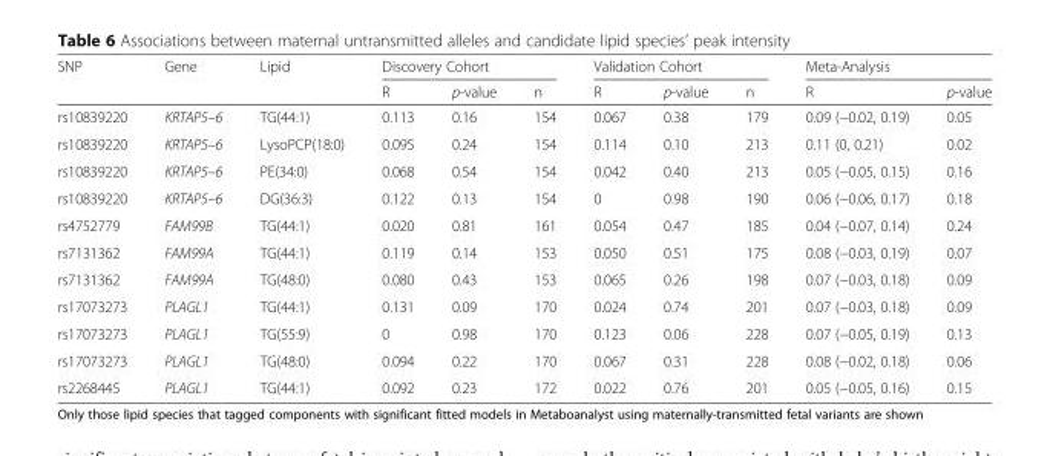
<table><thead><tr><td rowspan="2">SNP</td><td rowspan="2">Gene</td><td rowspan="2">Lipid</td><td colspan="3">Discovery Cohort</td><td colspan="3">Validation Cohort</td><td colspan="2">Meta-Analysis</td></tr><tr><td>R</td><td>p-value</td><td>n</td><td>R</td><td>p-value</td><td>n</td><td>R</td><td>p-value</td></tr></thead><tbody><tr><td>rs10839220</td><td>KRTAP5–6</td><td>TG(44:1)</td><td>0.113</td><td>0.16</td><td>154</td><td>0.067</td><td>0.38</td><td>179</td><td>0.09 (−0.02, 0.19)</td><td>0.05</td></tr><tr><td>rs10839220</td><td>KRTAP5–6</td><td>LysoPCP(18:0)</td><td>0.095</td><td>0.24</td><td>154</td><td>0.114</td><td>0.10</td><td>213</td><td>0.11 (0, 0.21)</td><td>0.02</td></tr><tr><td>rs10839220</td><td>KRTAP5–6</td><td>PE(34:0)</td><td>0.068</td><td>0.54</td><td>154</td><td>0.042</td><td>0.40</td><td>213</td><td>0.05 (−0.05, 0.15)</td><td>0.16</td></tr><tr><td>rs10839220</td><td>KRTAP5–6</td><td>DG(36:3)</td><td>0.122</td><td>0.13</td><td>154</td><td>0</td><td>0.98</td><td>190</td><td>0.06 (−0.06, 0.17)</td><td>0.18</td></tr><tr><td>rs4752779</td><td>FAM99B</td><td>TG(44:1)</td><td>0.020</td><td>0.81</td><td>161</td><td>0.054</td><td>0.47</td><td>185</td><td>0.04 (−0.07, 0.14)</td><td>0.24</td></tr><tr><td>rs7131362</td><td>FAM99A</td><td>TG(44:1)</td><td>0.119</td><td>0.14</td><td>153</td><td>0.050</td><td>0.51</td><td>175</td><td>0.08 (−0.03, 0.19)</td><td>0.07</td></tr><tr><td>rs7131362</td><td>FAM99A</td><td>TG(48:0)</td><td>0.080</td><td>0.43</td><td>153</td><td>0.065</td><td>0.26</td><td>198</td><td>0.07 (−0.03, 0.18)</td><td>0.09</td></tr><tr><td>rs17073273</td><td>PLAGL1</td><td>TG(44:1)</td><td>0.131</td><td>0.09</td><td>170</td><td>0.024</td><td>0.74</td><td>201</td><td>0.07 (−0.03, 0.18)</td><td>0.09</td></tr><tr><td>rs17073273</td><td>PLAGL1</td><td>TG(55:9)</td><td>0</td><td>0.98</td><td>170</td><td>0.123</td><td>0.06</td><td>228</td><td>0.07 (−0.05, 0.19)</td><td>0.13</td></tr><tr><td>rs17073273</td><td>PLAGL1</td><td>TG(48:0)</td><td>0.094</td><td>0.22</td><td>170</td><td>0.067</td><td>0.31</td><td>228</td><td>0.08 (−0.02, 0.18)</td><td>0.06</td></tr><tr><td>rs2268445</td><td>PLAGL1</td><td>TG(44:1)</td><td>0.092</td><td>0.23</td><td>172</td><td>0.022</td><td>0.76</td><td>201</td><td>0.05 (−0.05, 0.16)</td><td>0.15</td></tr></tbody></table>